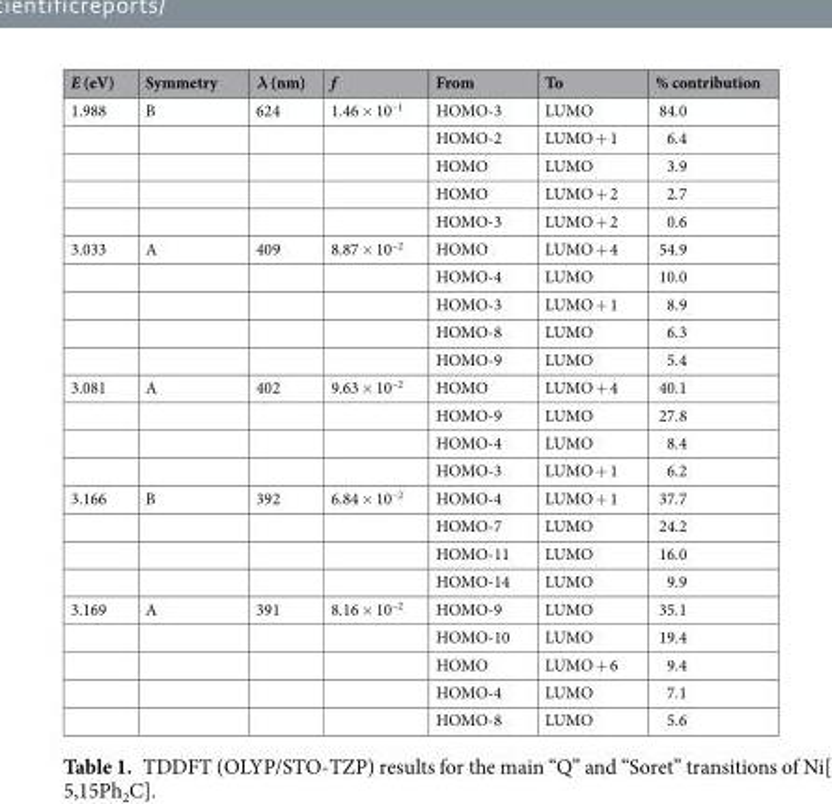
<table><thead><tr><td>E (eV)</td><td>Symmetry</td><td>λ (nm)</td><td>f</td><td>From</td><td>To</td><td>% contribution</td></tr></thead><tbody><tr><td rowspan="5">1.988</td><td>B</td><td>624</td><td>1.46 × 10<sup>–1</sup></td><td>HOMO-3</td><td>LUMO</td><td>84.0</td></tr><tr><td></td><td></td><td></td><td>HOMO-2</td><td>LUMO + 1</td><td>6.4</td></tr><tr><td></td><td></td><td></td><td>HOMO</td><td>LUMO</td><td>3.9</td></tr><tr><td></td><td></td><td></td><td>HOMO</td><td>LUMO + 2</td><td>2.7</td></tr><tr><td></td><td></td><td></td><td>HOMO-3</td><td>LUMO + 2</td><td>0.6</td></tr><tr><td rowspan="5">3.033</td><td>A</td><td>409</td><td>8.87 × 10<sup>–2</sup></td><td>HOMO</td><td>LUMO + 4</td><td>54.9</td></tr><tr><td></td><td></td><td></td><td>HOMO-4</td><td>LUMO</td><td>10.0</td></tr><tr><td></td><td></td><td></td><td>HOMO-3</td><td>LUMO + 1</td><td>8.9</td></tr><tr><td></td><td></td><td></td><td>HOMO-8</td><td>LUMO</td><td>6.3</td></tr><tr><td></td><td></td><td></td><td>HOMO-9</td><td>LUMO</td><td>5.4</td></tr><tr><td rowspan="4">3.081</td><td>A</td><td>402</td><td>9.63 × 10<sup>–2</sup></td><td>HOMO</td><td>LUMO + 4</td><td>40.1</td></tr><tr><td></td><td></td><td></td><td>HOMO-9</td><td>LUMO</td><td>27.8</td></tr><tr><td></td><td></td><td></td><td>HOMO-4</td><td>LUMO</td><td>8.4</td></tr><tr><td></td><td></td><td></td><td>HOMO-3</td><td>LUMO + 1</td><td>6.2</td></tr><tr><td rowspan="4">3.166</td><td>B</td><td>392</td><td>6.84 × 10<sup>–2</sup></td><td>HOMO-4</td><td>LUMO + 1</td><td>37.7</td></tr><tr><td></td><td></td><td></td><td>HOMO-7</td><td>LUMO</td><td>24.2</td></tr><tr><td></td><td></td><td></td><td>HOMO-11</td><td>LUMO</td><td>16.0</td></tr><tr><td></td><td></td><td></td><td>HOMO-14</td><td>LUMO</td><td>9.9</td></tr><tr><td rowspan="5">3.169</td><td>A</td><td>391</td><td>8.16 × 10<sup>–2</sup></td><td>HOMO-9</td><td>LUMO</td><td>35.1</td></tr><tr><td></td><td></td><td></td><td>HOMO-10</td><td>LUMO</td><td>19.4</td></tr><tr><td></td><td></td><td></td><td>HOMO</td><td>LUMO + 6</td><td>9.4</td></tr><tr><td></td><td></td><td></td><td>HOMO-4</td><td>LUMO</td><td>7.1</td></tr><tr><td></td><td></td><td></td><td>HOMO-8</td><td>LUMO</td><td>5.6</td></tr></tbody></table>